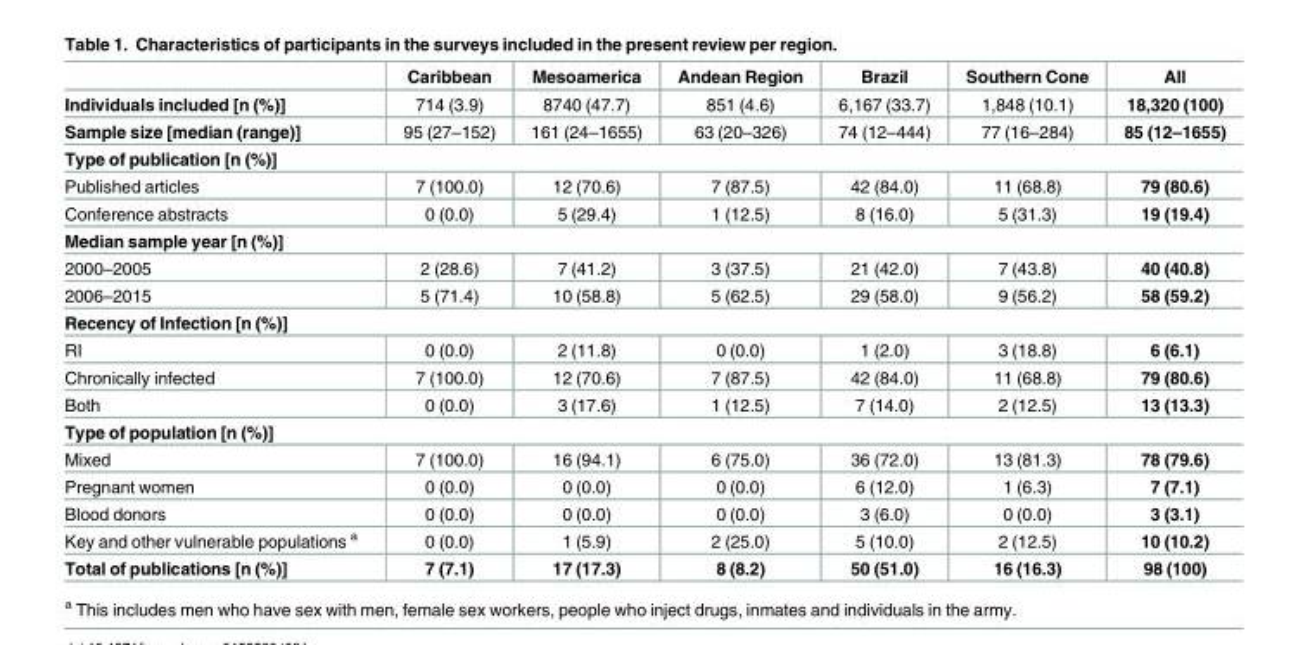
<table><thead><tr><td></td><td>Caribbean</td><td>Mesoamerica</td><td>Andean Region</td><td>Brazil</td><td>Southern Cone</td><td>All</td></tr></thead><tbody><tr><td>Individuals included [n (%)]</td><td>714 (3.9)</td><td>8740 (47.7)</td><td>851 (4.6)</td><td>6,167 (33.7)</td><td>1,848 (10.1)</td><td>18,320 (100)</td></tr><tr><td>Sample size [median (range)]</td><td>95 (27–152)</td><td>161 (24–1655)</td><td>63 (20–326)</td><td>74 (12–444)</td><td>77 (16–284)</td><td>85 (12–1655)</td></tr><tr><td colspan="7">Type of publication [n (%)]</td></tr><tr><td>Published articles</td><td>7 (100.0)</td><td>12 (70.6)</td><td>7 (87.5)</td><td>42 (84.0)</td><td>11 (68.8)</td><td>79 (80.6)</td></tr><tr><td>Conference abstracts</td><td>0 (0.0)</td><td>5 (29.4)</td><td>1 (12.5)</td><td>8 (16.0)</td><td>5 (31.3)</td><td>19 (19.4)</td></tr><tr><td colspan="7">Median sample year [n (%)]</td></tr><tr><td>2000–2005</td><td>2 (28.6)</td><td>7 (41.2)</td><td>3 (37.5)</td><td>21 (42.0)</td><td>7 (43.8)</td><td>40 (40.8)</td></tr><tr><td>2006–2015</td><td>5 (71.4)</td><td>10 (58.8)</td><td>5 (62.5)</td><td>29 (58.0)</td><td>9 (56.2)</td><td>58 (59.2)</td></tr><tr><td colspan="7">Recency of Infection [n (%)]</td></tr><tr><td>RI</td><td>0 (0.0)</td><td>2 (11.8)</td><td>0 (0.0)</td><td>1 (2.0)</td><td>3 (18.8)</td><td>6 (6.1)</td></tr><tr><td>Chronically infected</td><td>7 (100.0)</td><td>12 (70.6)</td><td>7 (87.5)</td><td>42 (84.0)</td><td>11 (68.8)</td><td>79 (80.6)</td></tr><tr><td>Both</td><td>0 (0.0)</td><td>3 (17.6)</td><td>1 (12.5)</td><td>7 (14.0)</td><td>2 (12.5)</td><td>13 (13.3)</td></tr><tr><td colspan="7">Type of population [n (%)]</td></tr><tr><td>Mixed</td><td>7 (100.0)</td><td>16 (94.1)</td><td>6 (75.0)</td><td>36 (72.0)</td><td>13 (81.3)</td><td>78 (79.6)</td></tr><tr><td>Pregnant women</td><td>0 (0.0)</td><td>0 (0.0)</td><td>0 (0.0)</td><td>6 (12.0)</td><td>1 (6.3)</td><td>7 (7.1)</td></tr><tr><td>Blood donors</td><td>0 (0.0)</td><td>0 (0.0)</td><td>0 (0.0)</td><td>3 (6.0)</td><td>0 (0.0)</td><td>3 (3.1)</td></tr><tr><td>Key and other vulnerable populations <sup>a</sup></td><td>0 (0.0)</td><td>1 (5.9)</td><td>2 (25.0)</td><td>5 (10.0)</td><td>2 (12.5)</td><td>10 (10.2)</td></tr><tr><td>Total of publications [n (%)]</td><td>7 (7.1)</td><td>17 (17.3)</td><td>8 (8.2)</td><td>50 (51.0)</td><td>16 (16.3)</td><td>98 (100)</td></tr></tbody></table>